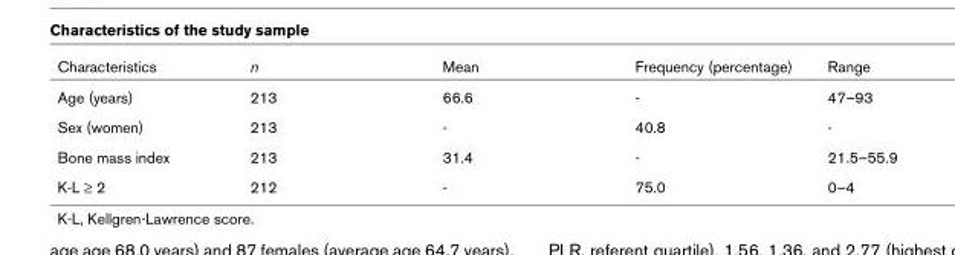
<table><thead><tr><td>Characteristics</td><td>n</td><td>Mean</td><td>Frequency (percentage)</td><td>Range</td></tr></thead><tbody><tr><td>Age (years)</td><td>213</td><td>66.6</td><td>-</td><td>47–93</td></tr><tr><td>Sex (women)</td><td>213</td><td>-</td><td>40.8</td><td>-</td></tr><tr><td>Bone mass index</td><td>213</td><td>31.4</td><td>-</td><td>21.5–55.9</td></tr><tr><td>K-L ≥ 2</td><td>212</td><td>-</td><td>75.0</td><td>0–4</td></tr></tbody></table>